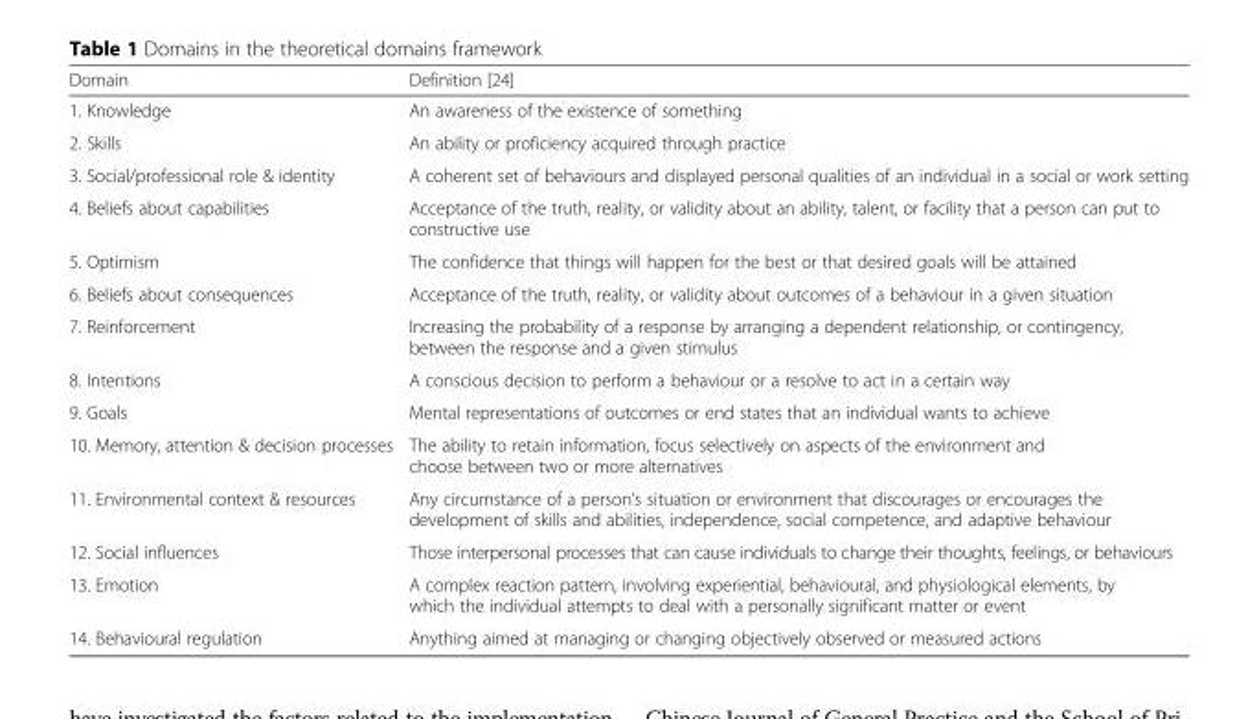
<table><thead><tr><td>Domain</td><td>Definition [24]</td></tr></thead><tbody><tr><td>1. Knowledge</td><td>An awareness of the existence of something</td></tr><tr><td>2. Skills</td><td>An ability or proficiency acquired through practice</td></tr><tr><td>3. Social/professional role &amp; identity</td><td>A coherent set of behaviours and displayed personal qualities of an individual in a social or work setting</td></tr><tr><td>4. Beliefs about capabilities</td><td>Acceptance of the truth, reality, or validity about an ability, talent, or facility that a person can put to constructive use</td></tr><tr><td>5. Optimism</td><td>The confidence that things will happen for the best or that desired goals will be attained</td></tr><tr><td>6. Beliefs about consequences</td><td>Acceptance of the truth, reality, or validity about outcomes of a behaviour in a given situation</td></tr><tr><td>7. Reinforcement</td><td>Increasing the probability of a response by arranging a dependent relationship, or contingency, between the response and a given stimulus</td></tr><tr><td>8. Intentions</td><td>A conscious decision to perform a behaviour or a resolve to act in a certain way</td></tr><tr><td>9. Goals</td><td>Mental representations of outcomes or end states that an individual wants to achieve</td></tr><tr><td>10. Memory, attention &amp; decision processes</td><td>The ability to retain information, focus selectively on aspects of the environment and choose between two or more alternatives</td></tr><tr><td>11. Environmental context &amp; resources</td><td>Any circumstance of a person’s situation or environment that discourages or encourages the development of skills and abilities, independence, social competence, and adaptive behaviour</td></tr><tr><td>12. Social influences</td><td>Those interpersonal processes that can cause individuals to change their thoughts, feelings, or behaviours</td></tr><tr><td>13. Emotion</td><td>A complex reaction pattern, involving experiential, behavioural, and physiological elements, by which the individual attempts to deal with a personally significant matter or event</td></tr><tr><td>14. Behavioural regulation</td><td>Anything aimed at managing or changing objectively observed or measured actions</td></tr></tbody></table>